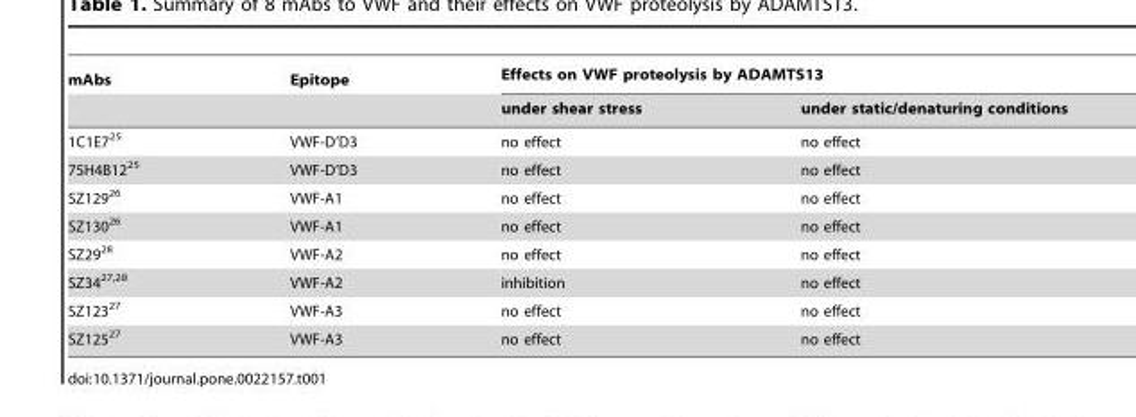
<table><thead><tr><td rowspan="2">mAbs</td><td rowspan="2">Epitope</td><td colspan="2">Effects on VWF proteolysis by ADAMTS13</td></tr><tr><td>under shear stress</td><td>under static/denaturing conditions</td></tr></thead><tbody><tr><td>1C1E7<sup>25</sup></td><td>VWF-D’D3</td><td>no effect</td><td>no effect</td></tr><tr><td>75H4B12<sup>25</sup></td><td>VWF-D’D3</td><td>no effect</td><td>no effect</td></tr><tr><td>SZ129<sup>26</sup></td><td>VWF-A1</td><td>no effect</td><td>no effect</td></tr><tr><td>SZ130<sup>26</sup></td><td>VWF-A1</td><td>no effect</td><td>no effect</td></tr><tr><td>SZ29<sup>28</sup></td><td>VWF-A2</td><td>no effect</td><td>no effect</td></tr><tr><td>SZ34<sup>27,28</sup></td><td>VWF-A2</td><td>inhibition</td><td>no effect</td></tr><tr><td>SZ123<sup>27</sup></td><td>VWF-A3</td><td>no effect</td><td>no effect</td></tr><tr><td>SZ125<sup>27</sup></td><td>VWF-A3</td><td>no effect</td><td>no effect</td></tr></tbody></table>